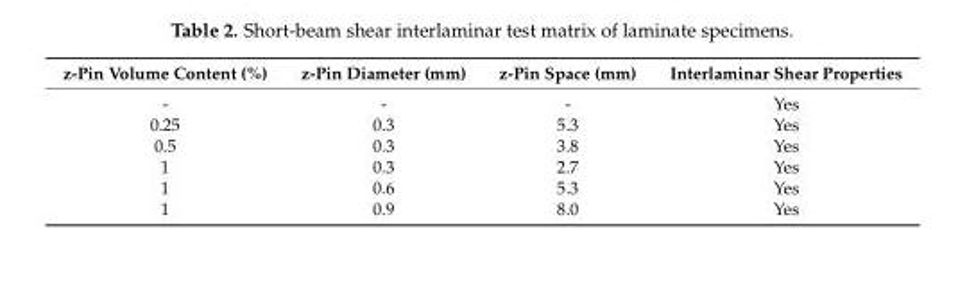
<table><thead><tr><td>z-Pin Volume Content (%)</td><td>z-Pin Diameter (mm)</td><td>z-Pin Space (mm)</td><td>Interlaminar Shear Properties</td></tr></thead><tbody><tr><td>-</td><td>-</td><td>-</td><td>Yes</td></tr><tr><td>0.25</td><td>0.3</td><td>5.3</td><td>Yes</td></tr><tr><td>0.5</td><td>0.3</td><td>3.8</td><td>Yes</td></tr><tr><td>1</td><td>0.3</td><td>2.7</td><td>Yes</td></tr><tr><td>1</td><td>0.6</td><td>5.3</td><td>Yes</td></tr><tr><td>1</td><td>0.9</td><td>8.0</td><td>Yes</td></tr></tbody></table>